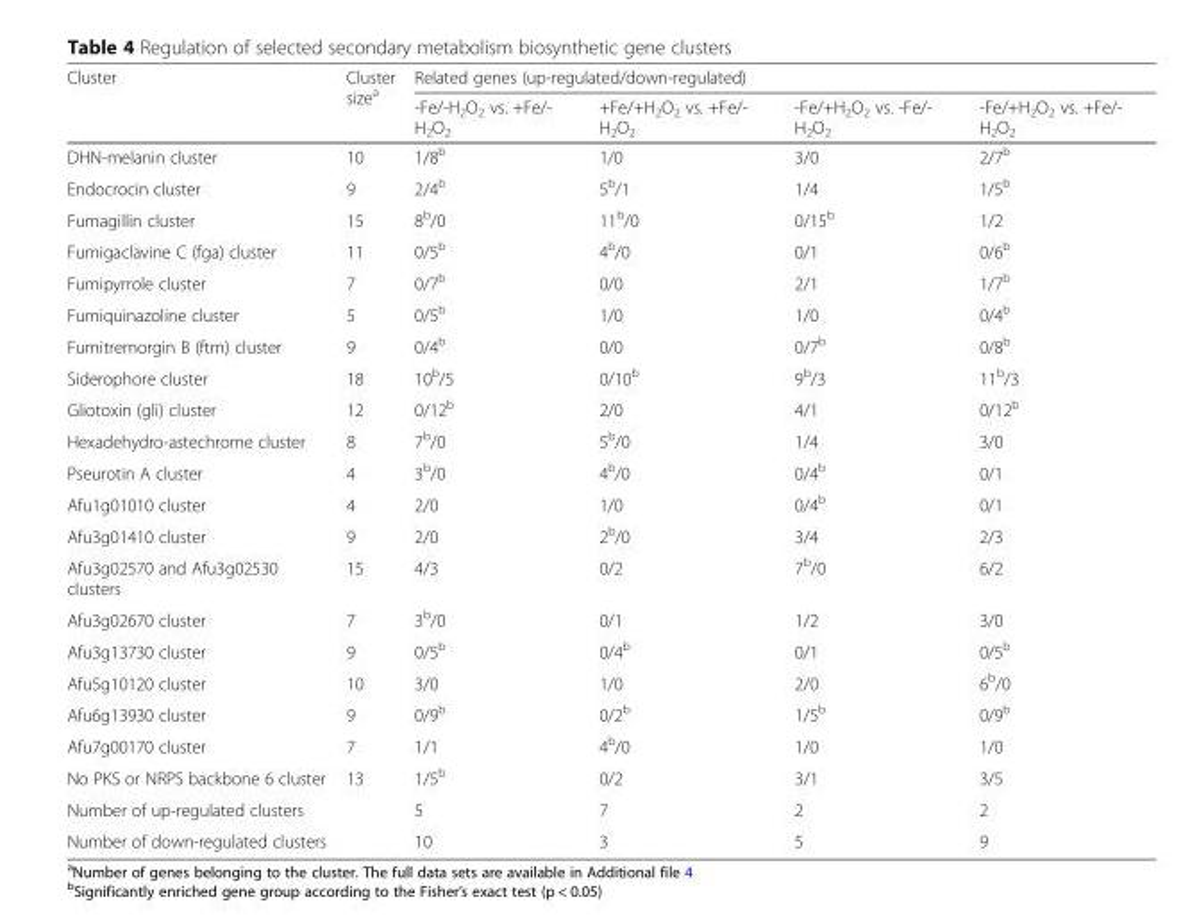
<table><thead><tr><td rowspan="2">Cluster</td><td rowspan="2">Cluster size<sup>a</sup></td><td colspan="4">Related genes (up-regulated/down-regulated)</td></tr><tr><td>-Fe/-H<sub>2</sub>O<sub>2</sub> vs. +Fe/- H<sub>2</sub>O<sub>2</sub></td><td>+Fe/+H<sub>2</sub>O<sub>2</sub> vs. +Fe/- H<sub>2</sub>O<sub>2</sub></td><td>-Fe/+H<sub>2</sub>O<sub>2</sub> vs. -Fe/- H<sub>2</sub>O<sub>2</sub></td><td>-Fe/+H<sub>2</sub>O<sub>2</sub> vs. +Fe/- H<sub>2</sub>O<sub>2</sub></td></tr></thead><tbody><tr><td>DHN-melanin cluster</td><td>10</td><td>1/8<sup>b</sup></td><td>1/0</td><td>3/0</td><td>2/7<sup>b</sup></td></tr><tr><td>Endocrocin cluster</td><td>9</td><td>2/4<sup>b</sup></td><td>5<sup>b</sup>/1</td><td>1/4</td><td>1/5<sup>b</sup></td></tr><tr><td>Fumagillin cluster</td><td>15</td><td>8<sup>b</sup>/0</td><td>11<sup>b</sup>/0</td><td>0/15<sup>b</sup></td><td>1/2</td></tr><tr><td>Fumigaclavine C (fga) cluster</td><td>11</td><td>0/5<sup>b</sup></td><td>4<sup>b</sup>/0</td><td>0/1</td><td>0/6<sup>b</sup></td></tr><tr><td>Fumipyrrole cluster</td><td>7</td><td>0/7<sup>b</sup></td><td>0/0</td><td>2/1</td><td>1/7<sup>b</sup></td></tr><tr><td>Fumiquinazoline cluster</td><td>5</td><td>0/5<sup>b</sup></td><td>1/0</td><td>1/0</td><td>0/4<sup>b</sup></td></tr><tr><td>Fumitremorgin B (ftm) cluster</td><td>9</td><td>0/4<sup>b</sup></td><td>0/0</td><td>0/7<sup>b</sup></td><td>0/8<sup>b</sup></td></tr><tr><td>Siderophore cluster</td><td>18</td><td>10<sup>b</sup>/5</td><td>0/10<sup>b</sup></td><td>9<sup>b</sup>/3</td><td>11<sup>b</sup>/3</td></tr><tr><td>Gliotoxin (gli) cluster</td><td>12</td><td>0/12<sup>b</sup></td><td>2/0</td><td>4/1</td><td>0/12<sup>b</sup></td></tr><tr><td>Hexadehydro-astechrome cluster</td><td>8</td><td>7<sup>b</sup>/0</td><td>5<sup>b</sup>/0</td><td>1/4</td><td>3/0</td></tr><tr><td>Pseurotin A cluster</td><td>4</td><td>3<sup>b</sup>/0</td><td>4<sup>b</sup>/0</td><td>0/4<sup>b</sup></td><td>0/1</td></tr><tr><td>Afu1g01010 cluster</td><td>4</td><td>2/0</td><td>1/0</td><td>0/4<sup>b</sup></td><td>0/1</td></tr><tr><td>Afu3g01410 cluster</td><td>9</td><td>2/0</td><td>2<sup>b</sup>/0</td><td>3/4</td><td>2/3</td></tr><tr><td>Afu3g02570 and Afu3g02530 clusters</td><td>15</td><td>4/3</td><td>0/2</td><td>7<sup>b</sup>/0</td><td>6/2</td></tr><tr><td>Afu3g02670 cluster</td><td>7</td><td>3<sup>b</sup>/0</td><td>0/1</td><td>1/2</td><td>3/0</td></tr><tr><td>Afu3g13730 cluster</td><td>9</td><td>0/5<sup>b</sup></td><td>0/4<sup>b</sup></td><td>0/1</td><td>0/5<sup>b</sup></td></tr><tr><td>Afu5g10120 cluster</td><td>10</td><td>3/0</td><td>1/0</td><td>2/0</td><td>6<sup>b</sup>/0</td></tr><tr><td>Afu6g13930 cluster</td><td>9</td><td>0/9<sup>b</sup></td><td>0/2<sup>b</sup></td><td>1/5<sup>b</sup></td><td>0/9<sup>b</sup></td></tr><tr><td>Afu7g00170 cluster</td><td>7</td><td>1/1</td><td>4<sup>b</sup>/0</td><td>1/0</td><td>1/0</td></tr><tr><td>No PKS or NRPS backbone 6 cluster</td><td>13</td><td>1/5<sup>b</sup></td><td>0/2</td><td>3/1</td><td>3/5</td></tr><tr><td>Number of up-regulated clusters</td><td></td><td>5</td><td>7</td><td>2</td><td>2</td></tr><tr><td>Number of down-regulated clusters</td><td></td><td>10</td><td>3</td><td>5</td><td>9</td></tr></tbody></table>